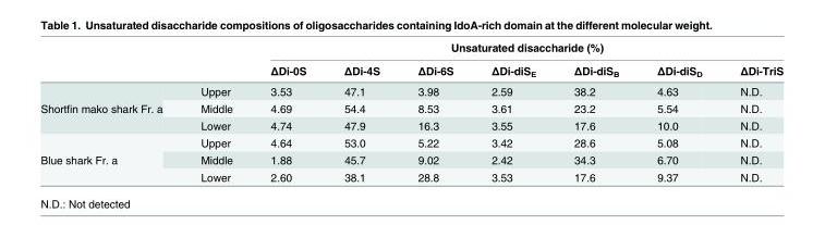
<table><thead><tr><td rowspan="2"></td><td rowspan="2"></td><td colspan="7">Unsaturated disaccharide (%)</td></tr><tr><td>ΔDi-0S</td><td>ΔDi-4S</td><td>ΔDi-6S</td><td>ΔDi-diS<sub>E</sub></td><td>ΔDi-diS<sub>B</sub></td><td>ΔDi-diS<sub>D</sub></td><td>ΔDi-TriS</td></tr></thead><tbody><tr><td rowspan="3">Shortfin mako shark Fr. a</td><td>Upper</td><td>3.53</td><td>47.1</td><td>3.98</td><td>2.59</td><td>38.2</td><td>4.63</td><td>N.D.</td></tr><tr><td>Middle</td><td>4.69</td><td>54.4</td><td>8.53</td><td>3.61</td><td>23.2</td><td>5.54</td><td>N.D.</td></tr><tr><td>Lower</td><td>4.74</td><td>47.9</td><td>16.3</td><td>3.55</td><td>17.6</td><td>10.0</td><td>N.D.</td></tr><tr><td rowspan="3">Blue shark Fr. a</td><td>Upper</td><td>4.64</td><td>53.0</td><td>5.22</td><td>3.42</td><td>28.6</td><td>5.08</td><td>N.D.</td></tr><tr><td>Middle</td><td>1.88</td><td>45.7</td><td>9.02</td><td>2.42</td><td>34.3</td><td>6.70</td><td>N.D.</td></tr><tr><td>Lower</td><td>2.60</td><td>38.1</td><td>28.8</td><td>3.53</td><td>17.6</td><td>9.37</td><td>N.D.</td></tr></tbody></table>